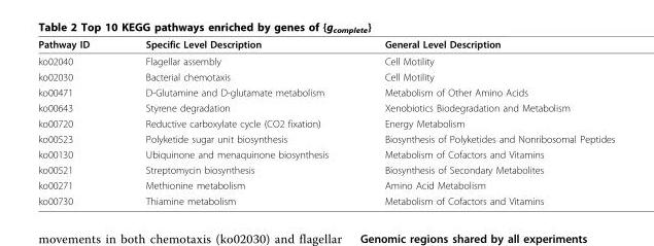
<table><thead><tr><td>Pathway ID</td><td>Specific Level Description</td><td>General Level Description</td></tr></thead><tbody><tr><td>ko02040</td><td>Flagellar assembly</td><td>Cell Motility</td></tr><tr><td>ko02030</td><td>Bacterial chemotaxis</td><td>Cell Motility</td></tr><tr><td>ko00471</td><td>D-Glutamine and D-glutamate metabolism</td><td>Metabolism of Other Amino Acids</td></tr><tr><td>ko00643</td><td>Styrene degradation</td><td>Xenobiotics Biodegradation and Metabolism</td></tr><tr><td>ko00720</td><td>Reductive carboxylate cycle (CO2 fixation)</td><td>Energy Metabolism</td></tr><tr><td>ko00523</td><td>Polyketide sugar unit biosynthesis</td><td>Biosynthesis of Polyketides and Nonribosomal Peptides</td></tr><tr><td>ko00130</td><td>Ubiquinone and menaquinone biosynthesis</td><td>Metabolism of Cofactors and Vitamins</td></tr><tr><td>ko00521</td><td>Streptomycin biosynthesis</td><td>Biosynthesis of Secondary Metabolites</td></tr><tr><td>ko00271</td><td>Methionine metabolism</td><td>Amino Acid Metabolism</td></tr><tr><td>ko00730</td><td>Thiamine metabolism</td><td>Metabolism of Cofactors and Vitamins</td></tr></tbody></table>